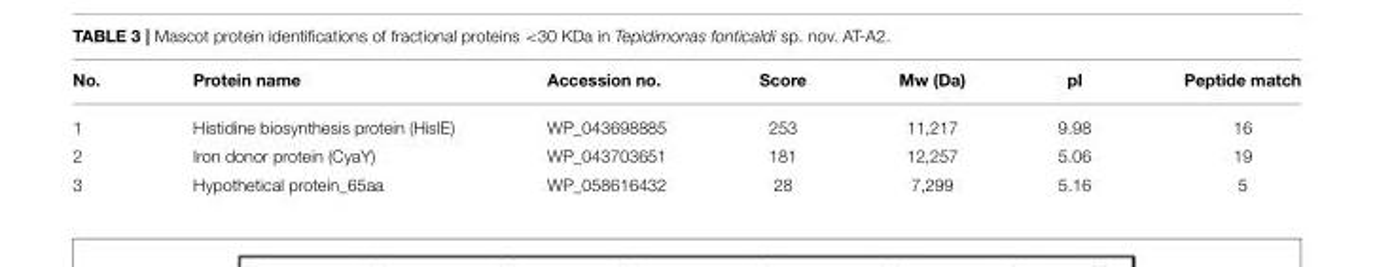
<table><thead><tr><td>No.</td><td>Protein name</td><td>Accession no.</td><td>Score</td><td>Mw (Da)</td><td>pI</td><td>Peptide match</td></tr></thead><tbody><tr><td>1</td><td>Histidine biosynthesis protein (HisIE)</td><td>WP_043698885</td><td>253</td><td>11,217</td><td>9.98</td><td>16</td></tr><tr><td>2</td><td>Iron donor protein (CyaY)</td><td>WP_043703651</td><td>181</td><td>12,257</td><td>5.06</td><td>19</td></tr><tr><td>3</td><td>Hypothetical protein_65aa</td><td>WP_058616432</td><td>28</td><td>7,299</td><td>5.16</td><td>5</td></tr></tbody></table>